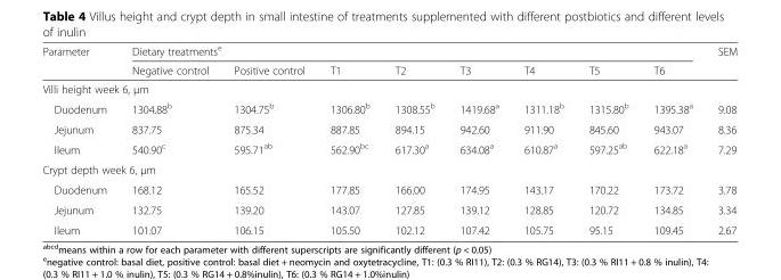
<table><thead><tr><td rowspan="2">Parameter</td><td colspan="8">Dietary treatments<sup>e</sup></td><td rowspan="2">SEM</td></tr><tr><td>Negative control</td><td>Positive control</td><td>T1</td><td>T2</td><td>T3</td><td>T4</td><td>T5</td><td>T6</td></tr></thead><tbody><tr><td colspan="10">Villi height week 6, μm</td></tr><tr><td>Duodenum</td><td>1304.88<sup>b</sup></td><td>1304.75<sup>b</sup></td><td>1306.80<sup>b</sup></td><td>1308.55<sup>b</sup></td><td>1419.68<sup>a</sup></td><td>1311.18<sup>b</sup></td><td>1315.80<sup>b</sup></td><td>1395.38<sup>a</sup></td><td>9.08</td></tr><tr><td>Jejunum</td><td>837.75</td><td>875.34</td><td>887.85</td><td>894.15</td><td>942.60</td><td>911.90</td><td>845.60</td><td>943.07</td><td>8.36</td></tr><tr><td>Ileum</td><td>540.90<sup>c</sup></td><td>595.71<sup>ab</sup></td><td>562.90<sup>bc</sup></td><td>617.30<sup>a</sup></td><td>634.08<sup>a</sup></td><td>610.87<sup>a</sup></td><td>597.25<sup>ab</sup></td><td>622.18<sup>a</sup></td><td>7.29</td></tr><tr><td colspan="10">Crypt depth week 6, μm</td></tr><tr><td>Duodenum</td><td>168.12</td><td>165.52</td><td>177.85</td><td>166.00</td><td>174.95</td><td>143.17</td><td>170.22</td><td>173.72</td><td>3.78</td></tr><tr><td>Jejunum</td><td>132.75</td><td>139.20</td><td>143.07</td><td>127.85</td><td>139.12</td><td>128.85</td><td>120.72</td><td>134.85</td><td>3.34</td></tr><tr><td>Ileum</td><td>101.07</td><td>106.15</td><td>105.50</td><td>102.12</td><td>107.42</td><td>105.75</td><td>95.15</td><td>109.45</td><td>2.67</td></tr></tbody></table>